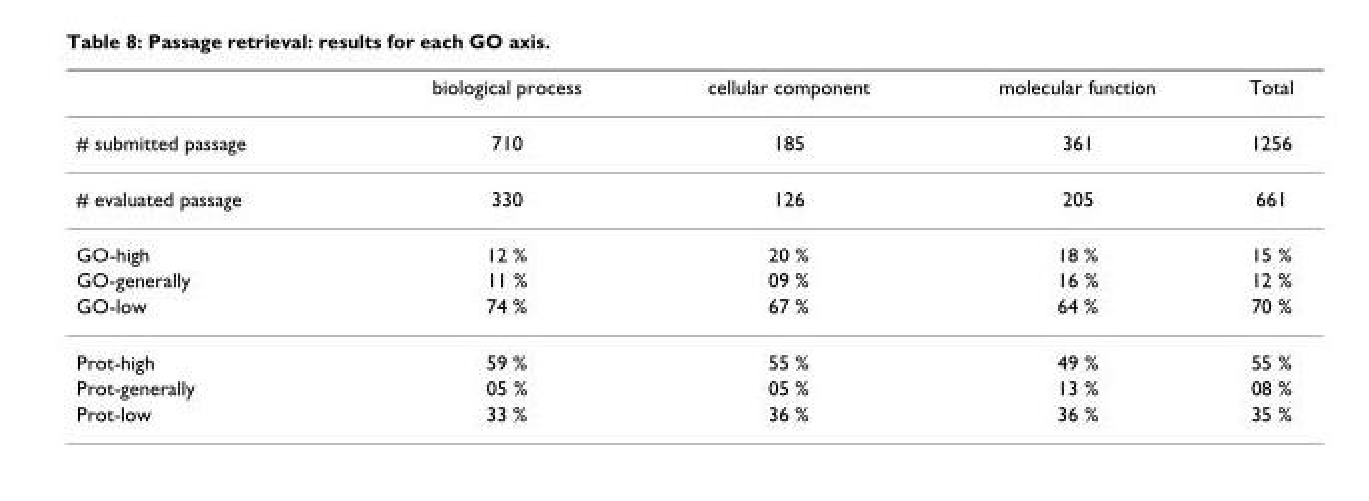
<table><thead><tr><td></td><td>biological process</td><td>cellular component</td><td>molecular function</td><td>Total</td></tr></thead><tbody><tr><td># submitted passage</td><td>710</td><td>185</td><td>361</td><td>1256</td></tr><tr><td># evaluated passage</td><td>330</td><td>126</td><td>205</td><td>661</td></tr><tr><td>GO-high</td><td>12 %</td><td>20 %</td><td>18 %</td><td>15 %</td></tr><tr><td>GO-generally</td><td>11 %</td><td>09 %</td><td>16 %</td><td>12 %</td></tr><tr><td>GO-low</td><td>74 %</td><td>67 %</td><td>64 %</td><td>70 %</td></tr><tr><td>Prot-high</td><td>59 %</td><td>55 %</td><td>49 %</td><td>55 %</td></tr><tr><td>Prot-generally</td><td>05 %</td><td>05 %</td><td>13 %</td><td>08 %</td></tr><tr><td>Prot-low</td><td>33 %</td><td>36 %</td><td>36 %</td><td>35 %</td></tr></tbody></table>